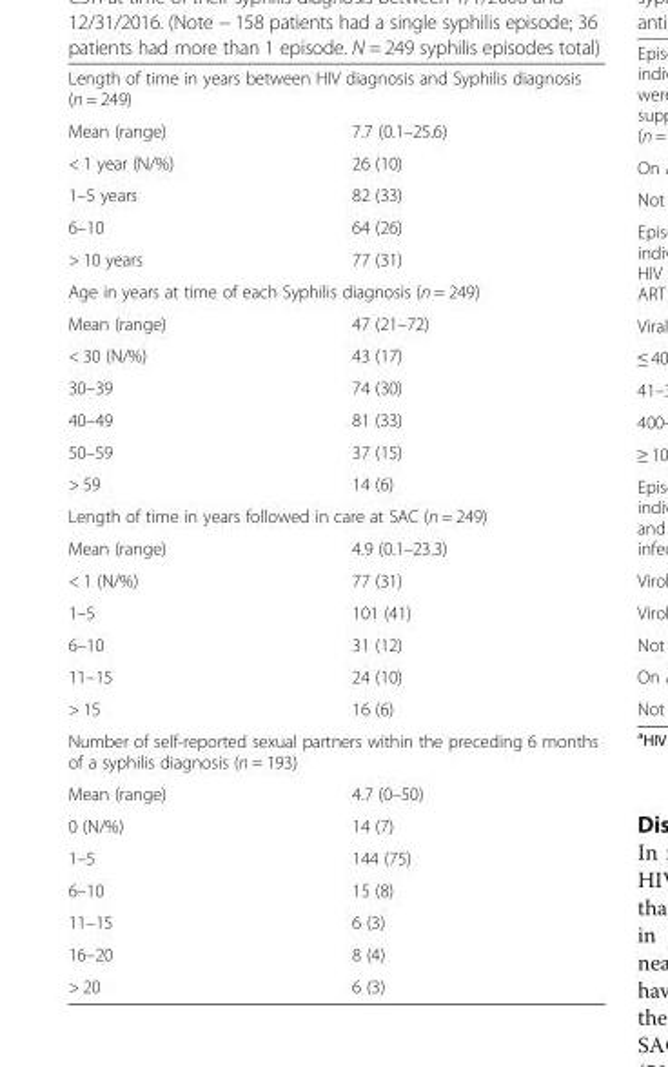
<table><tbody><tr><td colspan="2">Length of time in years between HIV diagnosis and Syphilis diagnosis (n = 249)</td></tr><tr><td>Mean (range)</td><td>7.7 (0.1–25.6)</td></tr><tr><td>&lt; 1 year (N/%)</td><td>26 (10)</td></tr><tr><td>1–5 years</td><td>82 (33)</td></tr><tr><td>6–10</td><td>64 (26)</td></tr><tr><td>&gt; 10 years</td><td>77 (31)</td></tr><tr><td colspan="2">Age in years at time of each Syphilis diagnosis (n = 249)</td></tr><tr><td>Mean (range)</td><td>47 (21–72)</td></tr><tr><td>&lt; 30 (N/%)</td><td>43 (17)</td></tr><tr><td>30–39</td><td>74 (30)</td></tr><tr><td>40–49</td><td>81 (33)</td></tr><tr><td>50–59</td><td>37 (15)</td></tr><tr><td>&gt; 59</td><td>14 (6)</td></tr><tr><td colspan="2">Length of time in years followed in care at SAC (n = 249)</td></tr><tr><td>Mean (range)</td><td>4.9 (0.1–23.3)</td></tr><tr><td>&lt; 1 (N/%)</td><td>77 (31)</td></tr><tr><td>1–5</td><td>101 (41)</td></tr><tr><td>6–10</td><td>31 (12)</td></tr><tr><td>11–15</td><td>24 (10)</td></tr><tr><td>&gt; 15</td><td>16 (6)</td></tr><tr><td colspan="2">Number of self-reported sexual partners within the preceding 6 months of a syphilis diagnosis (n = 193)</td></tr><tr><td>Mean (range)</td><td>4.7 (0–50)</td></tr><tr><td>0 (N/%)</td><td>14 (7)</td></tr><tr><td>1–5</td><td>144 (75)</td></tr><tr><td>6–10</td><td>15 (8)</td></tr><tr><td>11–15</td><td>6 (3)</td></tr><tr><td>16–20</td><td>8 (4)</td></tr><tr><td>&gt; 20</td><td>6 (3)</td></tr></tbody></table>